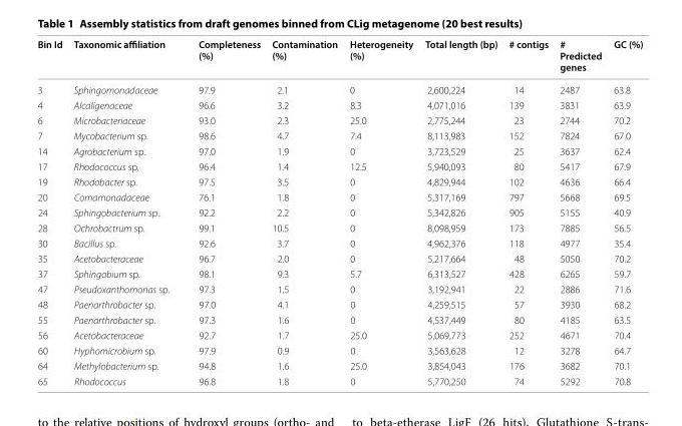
<table><thead><tr><td>Bin Id</td><td>Taxonomic affiliation</td><td>Completeness (%)</td><td>Contamination (%)</td><td>Heterogeneity (%)</td><td>Total length (bp)</td><td># contigs</td><td># Predicted genes</td><td>GC (%)</td></tr></thead><tbody><tr><td>3</td><td>Sphingomonadaceae</td><td>97.9</td><td>2.1</td><td>0</td><td>2,600,224</td><td>14</td><td>2487</td><td>63.8</td></tr><tr><td>4</td><td>Alcaligenaceae</td><td>96.6</td><td>3.2</td><td>8.3</td><td>4,071,016</td><td>139</td><td>3831</td><td>63.9</td></tr><tr><td>6</td><td>Microbacteriaceae</td><td>93.0</td><td>2.3</td><td>25.0</td><td>2,775,244</td><td>23</td><td>2744</td><td>70.2</td></tr><tr><td>7</td><td>Mycobacterium sp.</td><td>98.6</td><td>4.7</td><td>7.4</td><td>8,113,983</td><td>152</td><td>7824</td><td>67.0</td></tr><tr><td>14</td><td>Agrobacterium sp.</td><td>97.0</td><td>1.9</td><td>0</td><td>3,723,529</td><td>25</td><td>3637</td><td>62.4</td></tr><tr><td>17</td><td>Rhodococcus sp.</td><td>96.4</td><td>1.4</td><td>12.5</td><td>5,940,093</td><td>80</td><td>5417</td><td>67.9</td></tr><tr><td>19</td><td>Rhodobacter sp.</td><td>97.5</td><td>3.5</td><td>0</td><td>4,829,944</td><td>102</td><td>4636</td><td>66.4</td></tr><tr><td>20</td><td>Comamonadaceae</td><td>76.1</td><td>1.8</td><td>0</td><td>5,317,169</td><td>797</td><td>5668</td><td>69.5</td></tr><tr><td>24</td><td>Sphingobacterium sp.</td><td>92.2</td><td>2.2</td><td>0</td><td>5,342,826</td><td>905</td><td>5155</td><td>40.9</td></tr><tr><td>28</td><td>Ochrobactrum sp.</td><td>99.1</td><td>10.5</td><td>0</td><td>8,098,959</td><td>173</td><td>7885</td><td>56.5</td></tr><tr><td>30</td><td>Bacillus sp.</td><td>92.6</td><td>3.7</td><td>0</td><td>4,962,376</td><td>118</td><td>4977</td><td>35.4</td></tr><tr><td>35</td><td>Acetobacteraceae</td><td>96.7</td><td>2.0</td><td>0</td><td>5,217,664</td><td>48</td><td>5050</td><td>70.2</td></tr><tr><td>37</td><td>Sphingobium sp.</td><td>98.1</td><td>9.3</td><td>5.7</td><td>6,313,527</td><td>428</td><td>6265</td><td>59.7</td></tr><tr><td>47</td><td>Pseudoxanthomonas sp.</td><td>97.3</td><td>1.5</td><td>0</td><td>3,192,941</td><td>22</td><td>2886</td><td>71.6</td></tr><tr><td>48</td><td>Paenarthrobacter sp.</td><td>97.0</td><td>4.1</td><td>0</td><td>4,259,515</td><td>57</td><td>3930</td><td>68.2</td></tr><tr><td>55</td><td>Paenarthrobacter sp.</td><td>97.3</td><td>1.6</td><td>0</td><td>4,537,449</td><td>80</td><td>4185</td><td>63.5</td></tr><tr><td>56</td><td>Acetobacteraceae</td><td>92.7</td><td>1.7</td><td>25.0</td><td>5,069,773</td><td>252</td><td>4671</td><td>70.4</td></tr><tr><td>60</td><td>Hyphomicrobium sp.</td><td>97.9</td><td>0.9</td><td>0</td><td>3,563,628</td><td>12</td><td>3278</td><td>64.7</td></tr><tr><td>64</td><td>Methylobacterium sp.</td><td>94.8</td><td>1.6</td><td>25.0</td><td>3,854,043</td><td>176</td><td>3682</td><td>70.1</td></tr><tr><td>65</td><td>Rhodococcus</td><td>96.8</td><td>1.8</td><td>0</td><td>5,770,250</td><td>74</td><td>5292</td><td>70.8</td></tr></tbody></table>